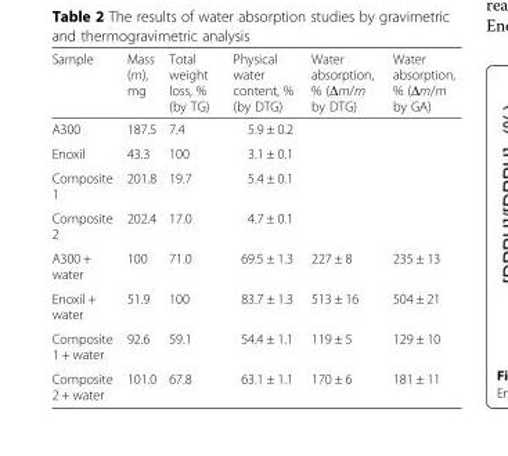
<table><thead><tr><td>Sample</td><td>Mass (m), mg</td><td>Total weight loss, % (by TG)</td><td>Physical water content, % (by DTG)</td><td>Water absorption, % (Δm/m by DTG)</td><td>Water absorption, % (Δm/m by GA)</td></tr></thead><tbody><tr><td>A300</td><td>187.5</td><td>7.4</td><td>5.9 ± 0.2</td><td></td><td></td></tr><tr><td>Enoxil</td><td>43.3</td><td>100</td><td>3.1 ± 0.1</td><td></td><td></td></tr><tr><td>Composite 1</td><td>201.8</td><td>19.7</td><td>5.4 ± 0.1</td><td></td><td></td></tr><tr><td>Composite 2</td><td>202.4</td><td>17.0</td><td>4.7 ± 0.1</td><td></td><td></td></tr><tr><td>A300 + water</td><td>100</td><td>71.0</td><td>69.5 ± 1.3</td><td>227 ± 8</td><td>235 ± 13</td></tr><tr><td>Enoxil + water</td><td>51.9</td><td>100</td><td>83.7 ± 1.3</td><td>513 ± 16</td><td>504 ± 21</td></tr><tr><td>Composite 1 + water</td><td>92.6</td><td>59.1</td><td>54.4 ± 1.1</td><td>119 ± 5</td><td>129 ± 10</td></tr><tr><td>Composite 2 + water</td><td>101.0</td><td>67.8</td><td>63.1 ± 1.1</td><td>170 ± 6</td><td>181 ± 11</td></tr></tbody></table>